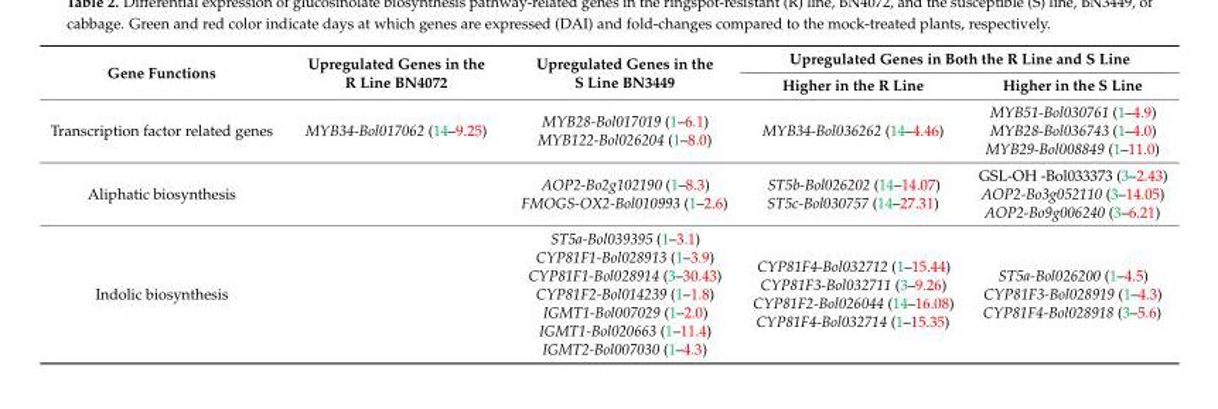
<table><thead><tr><td rowspan="2">Gene Functions</td><td rowspan="2">Upregulated Genes in the R Line BN4072</td><td rowspan="2">Upregulated Genes in the S Line BN3449</td><td colspan="2">Upregulated Genes in Both the R Line and S Line</td></tr><tr><td>Higher in the R Line</td><td>Higher in the S Line</td></tr></thead><tbody><tr><td>Transcription factor related genes</td><td>MYB34-Bol017062 (14–9.25)</td><td>MYB28-Bol017019 (1–6.1) MYB122-Bol026204 (1–8.0)</td><td>MYB34-Bol036262 (14–4.46)</td><td>MYB51-Bol030761 (1–4.9) MYB28-Bol036743 (1–4.0) MYB29-Bol008849 (1–11.0)</td></tr><tr><td>Aliphatic biosynthesis</td><td></td><td>AOP2-Bo2g102190 (1–8.3) FMOGS-OX2-Bol010993 (1–2.6)</td><td>ST5b-Bol026202 (14–14.07) ST5c-Bol030757 (14–27.31)</td><td>GSL-OH -Bol033373 (3–2.43) AOP2-Bo3g052110 (3–14.05) AOP2-Bo9g006240 (3–6.21)</td></tr><tr><td>Indolic biosynthesis</td><td></td><td>ST5a-Bol039395 (1–3.1) CYP81F1-Bol028913 (1–3.9) CYP81F1-Bol028914 (3–30.43) CYP81F2-Bol014239 (1–1.8) IGMT1-Bol007029 (1–2.0) IGMT1-Bol020663 (1–11.4) IGMT2-Bol007030 (1–4.3)</td><td>CYP81F4-Bol032712 (1–15.44) CYP81F3-Bol032711 (3–9.26) CYP81F2-Bol026044 (14–16.08) CYP81F4-Bol032714 (1–15.35)</td><td>ST5a-Bol026200 (1–4.5) CYP81F3-Bol028919 (1–4.3) CYP81F4-Bol028918 (3–5.6)</td></tr></tbody></table>